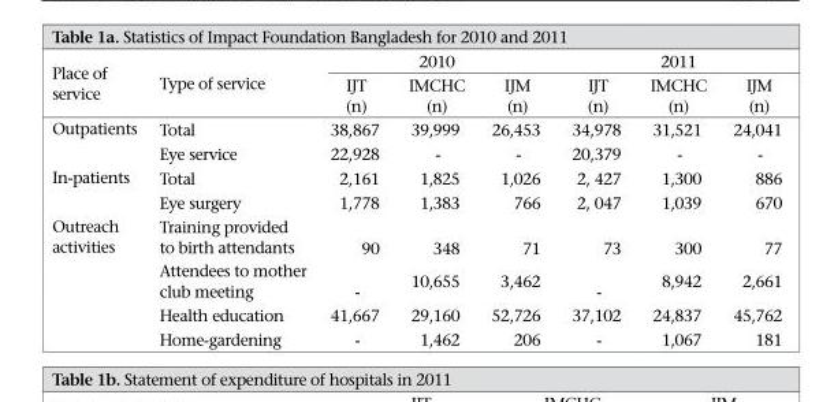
<table><thead><tr><td rowspan="2">Place of service</td><td rowspan="2">Type of service</td><td colspan="3">2010</td><td colspan="3">2011</td></tr><tr><td>IJT (n)</td><td>IMCHC (n)</td><td>IJM (n)</td><td>IJT (n)</td><td>IMCHC (n)</td><td>IJM (n)</td></tr></thead><tbody><tr><td rowspan="2">Outpatients</td><td>Total</td><td>38,867</td><td>39,999</td><td>26,453</td><td>34,978</td><td>31,521</td><td>24,041</td></tr><tr><td>Eye service</td><td>22,928</td><td>-</td><td>-</td><td>20,379</td><td>-</td><td>-</td></tr><tr><td rowspan="2">In-patients</td><td>Total</td><td>2,161</td><td>1,825</td><td>1,026</td><td>2, 427</td><td>1,300</td><td>886</td></tr><tr><td>Eye surgery</td><td>1,778</td><td>1,383</td><td>766</td><td>2, 047</td><td>1,039</td><td>670</td></tr><tr><td rowspan="4">Outreach activities</td><td>Training provided to birth attendants</td><td>90</td><td>348</td><td>71</td><td>73</td><td>300</td><td>77</td></tr><tr><td>Attendees to mother club meeting</td><td>-</td><td>10,655</td><td>3,462</td><td>-</td><td>8,942</td><td>2,661</td></tr><tr><td>Health education</td><td>41,667</td><td>29,160</td><td>52,726</td><td>37,102</td><td>24,837</td><td>45,762</td></tr><tr><td>Home-gardening</td><td>-</td><td>1,462</td><td>206</td><td>-</td><td>1,067</td><td>181</td></tr></tbody></table>